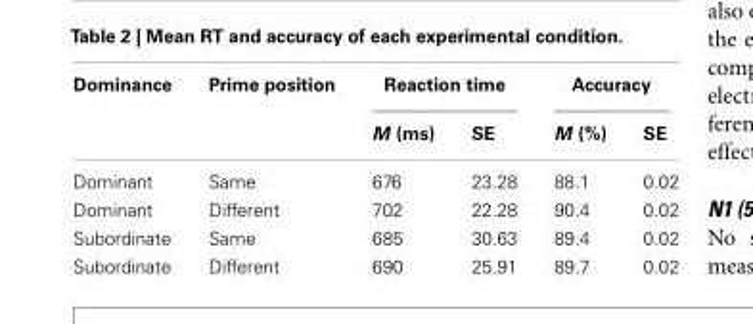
<table><thead><tr><td rowspan="2">Dominance</td><td rowspan="2">Prime position</td><td colspan="2">Reaction time</td><td colspan="2">Accuracy</td></tr><tr><td>M (ms)</td><td>SE</td><td>M (%)</td><td>SE</td></tr></thead><tbody><tr><td>Dominant</td><td>Same</td><td>676</td><td>23.28</td><td>88.1</td><td>0.02</td></tr><tr><td>Dominant</td><td>Different</td><td>702</td><td>22.28</td><td>90.4</td><td>0.02</td></tr><tr><td>Subordinate</td><td>Same</td><td>685</td><td>30.63</td><td>89.4</td><td>0.02</td></tr></tbody></table>